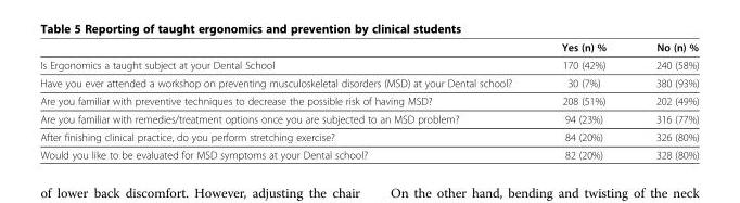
<table><thead><tr><td></td><td>Yes (n) %</td><td>No (n) %</td></tr></thead><tbody><tr><td>Is Ergonomics a taught subject at your Dental School</td><td>170 (42%)</td><td>240 (58%)</td></tr><tr><td>Have you ever attended a workshop on preventing musculoskeletal disorders (MSD) at your Dental school?</td><td>30 (7%)</td><td>380 (93%)</td></tr><tr><td>Are you familiar with preventive techniques to decrease the possible risk of having MSD?</td><td>208 (51%)</td><td>202 (49%)</td></tr><tr><td>Are you familiar with remedies/treatment options once you are subjected to an MSD problem?</td><td>94 (23%)</td><td>316 (77%)</td></tr><tr><td>After finishing clinical practice, do you perform stretching exercise?</td><td>84 (20%)</td><td>326 (80%)</td></tr><tr><td>Would you like to be evaluated for MSD symptoms at your Dental school?</td><td>82 (20%)</td><td>328 (80%)</td></tr></tbody></table>